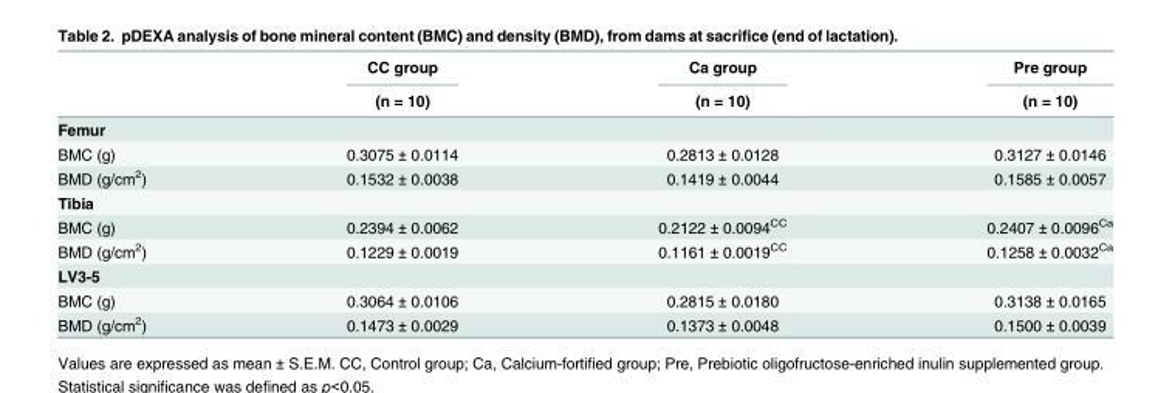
<table><thead><tr><td rowspan="2"></td><td rowspan="2">CC group (n = 10)</td><td rowspan="2">Ca group (n = 10)</td><td rowspan="2">Pre group (n = 10)</td></tr><tr></tr></thead><tbody><tr><td colspan="4">Femur</td></tr><tr><td>BMC (g)</td><td>0.3075 ± 0.0114</td><td>0.2813 ± 0.0128</td><td>0.3127 ± 0.0146</td></tr><tr><td>BMD (g/cm<sup>2</sup>)</td><td>0.1532 ± 0.0038</td><td>0.1419 ± 0.0044</td><td>0.1585 ± 0.0057</td></tr><tr><td colspan="4">Tibia</td></tr><tr><td>BMC (g)</td><td>0.2394 ± 0.0062</td><td>0.2122 ± 0.0094<sup>CC</sup></td><td>0.2407 ± 0.0096<sup>Ca</sup></td></tr><tr><td>BMD (g/cm<sup>2</sup>)</td><td>0.1229 ± 0.0019</td><td>0.1161 ± 0.0019<sup>CC</sup></td><td>0.1258 ± 0.0032<sup>Ca</sup></td></tr><tr><td colspan="4">LV3-5</td></tr><tr><td>BMC (g)</td><td>0.3064 ± 0.0106</td><td>0.2815 ± 0.0180</td><td>0.3138 ± 0.0165</td></tr><tr><td>BMD (g/cm<sup>2</sup>)</td><td>0.1473 ± 0.0029</td><td>0.1373 ± 0.0048</td><td>0.1500 ± 0.0039</td></tr></tbody></table>